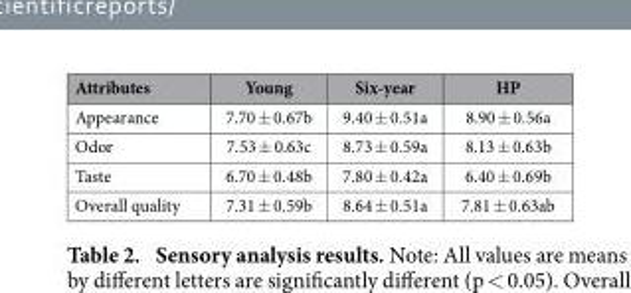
<table><thead><tr><td>Attributes</td><td>Young</td><td>Six-year</td><td>HP</td></tr></thead><tbody><tr><td>Appearance</td><td>7.70 ± 0.67b</td><td>9.40 ± 0.51a</td><td>8.90 ± 0.56a</td></tr><tr><td>Odor</td><td>7.53 ± 0.63c</td><td>8.73 ± 0.59a</td><td>8.13 ± 0.63b</td></tr><tr><td>Taste</td><td>6.70 ± 0.48b</td><td>7.80 ± 0.42a</td><td>6.40 ± 0.69b</td></tr><tr><td>Overall quality</td><td>7.31 ± 0.59b</td><td>8.64 ± 0.51a</td><td>7.81 ± 0.63ab</td></tr></tbody></table>